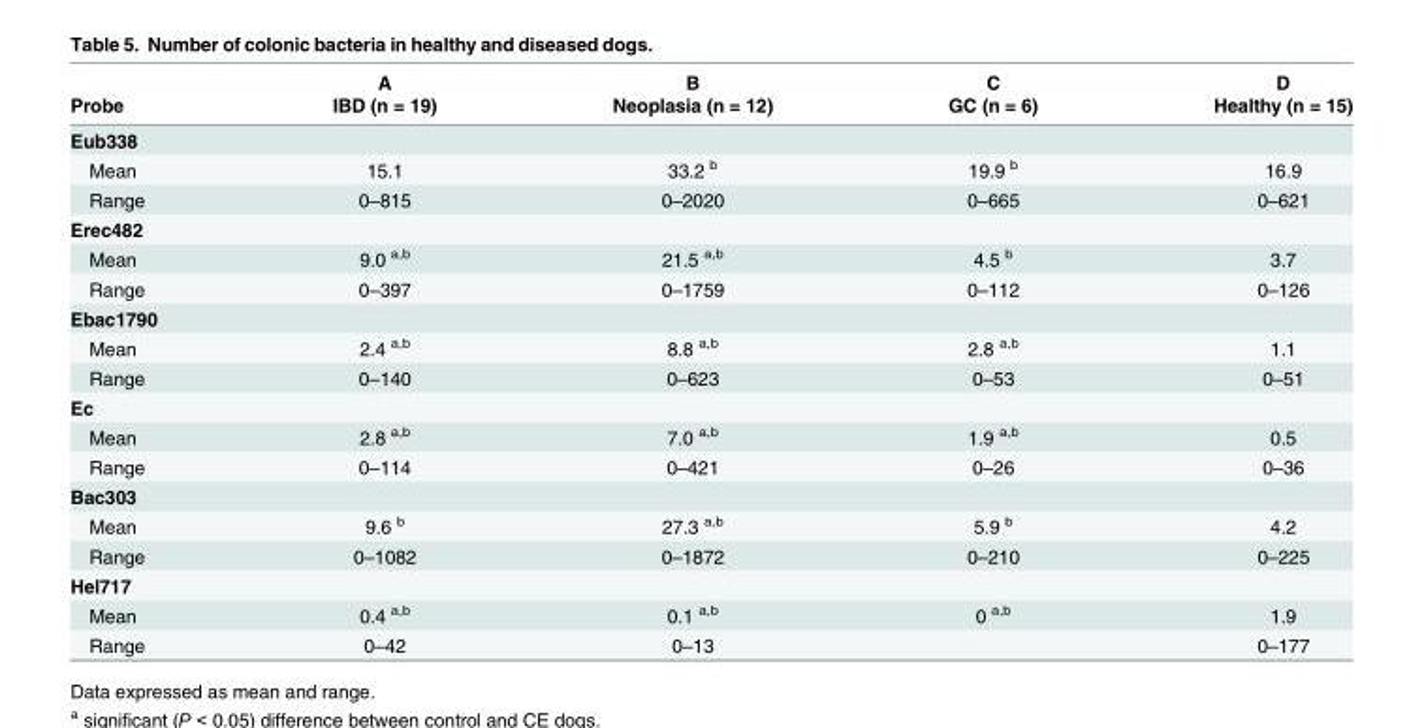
<table><thead><tr><td rowspan="2">Probe</td><td rowspan="2">A IBD (n = 19)</td><td rowspan="2">B Neoplasia (n = 12)</td><td rowspan="2">C GC (n = 6)</td><td rowspan="2">D Healthy (n = 15)</td></tr><tr></tr></thead><tbody><tr><td colspan="5">Eub338</td></tr><tr><td>Mean</td><td>15.1</td><td>33.2 <sup>b</sup></td><td>19.9 <sup>b</sup></td><td>16.9</td></tr><tr><td>Range</td><td>0–815</td><td>0–2020</td><td>0–665</td><td>0–621</td></tr><tr><td colspan="5">Erec482</td></tr><tr><td>Mean</td><td>9.0 <sup>a,b</sup></td><td>21.5 <sup>a,b</sup></td><td>4.5 <sup>b</sup></td><td>3.7</td></tr><tr><td>Range</td><td>0–397</td><td>0–1759</td><td>0–112</td><td>0–126</td></tr><tr><td colspan="5">Ebac1790</td></tr><tr><td>Mean</td><td>2.4 <sup>a,b</sup></td><td>8.8 <sup>a,b</sup></td><td>2.8 <sup>a,b</sup></td><td>1.1</td></tr><tr><td>Range</td><td>0–140</td><td>0–623</td><td>0–53</td><td>0–51</td></tr><tr><td colspan="5">Ec</td></tr><tr><td>Mean</td><td>2.8 <sup>a,b</sup></td><td>7.0 <sup>a,b</sup></td><td>1.9 <sup>a,b</sup></td><td>0.5</td></tr><tr><td>Range</td><td>0–114</td><td>0–421</td><td>0–26</td><td>0–36</td></tr><tr><td colspan="5">Bac303</td></tr><tr><td>Mean</td><td>9.6 <sup>b</sup></td><td>27.3 <sup>a,b</sup></td><td>5.9 <sup>b</sup></td><td>4.2</td></tr><tr><td>Range</td><td>0–1082</td><td>0–1872</td><td>0–210</td><td>0–225</td></tr><tr><td colspan="5">Hel717</td></tr><tr><td>Mean</td><td>0.4 <sup>a,b</sup></td><td>0.1 <sup>a,b</sup></td><td>0 <sup>a,b</sup></td><td>1.9</td></tr><tr><td>Range</td><td>0–42</td><td>0–13</td><td></td><td>0–177</td></tr></tbody></table>